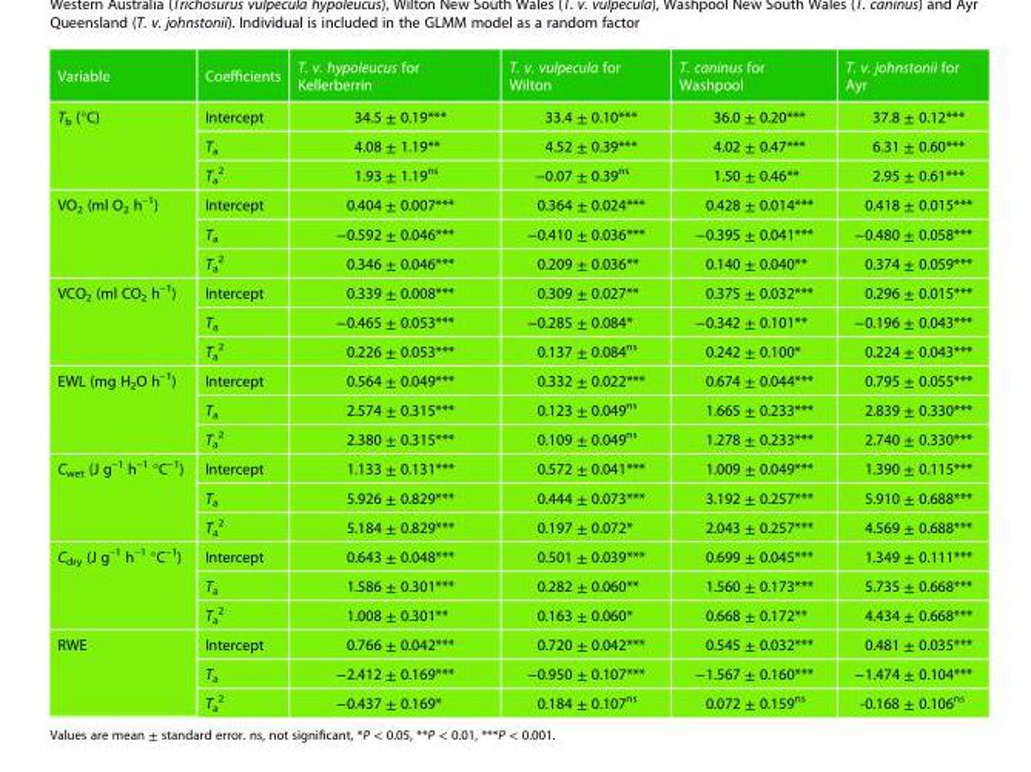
<table><thead><tr><td>Variable</td><td>Coefficients</td><td>T. v. hypoleucus for Kellerberrin</td><td>T. v. vulpecula for Wilton</td><td>T. caninus for Washpool</td><td>T. v. johnstonii for Ayr</td></tr></thead><tbody><tr><td rowspan="3">T<sub>b</sub> (°C)</td><td>Intercept</td><td>34.5 ± 0.19***</td><td>33.4 ± 0.10***</td><td>36.0 ± 0.20***</td><td>37.8 ± 0.12***</td></tr><tr><td>T<sub>a</sub></td><td>4.08 ± 1.19**</td><td>4.52 ± 0.39***</td><td>4.02 ± 0.47***</td><td>6.31 ± 0.60***</td></tr><tr><td>T<sub>a</sub> <sup>2</sup></td><td>1.93 ± 1.19<sup>ns</sup></td><td>−0.07 ± 0.39<sup>ns</sup></td><td>1.50 ± 0.46**</td><td>2.95 ± 0.61***</td></tr><tr><td rowspan="3">VO<sub>2</sub> (ml O<sub>2</sub> h<sup>–1</sup>)</td><td>Intercept</td><td>0.404 ± 0.007***</td><td>0.364 ± 0.024***</td><td>0.428 ± 0.014***</td><td>0.418 ± 0.015***</td></tr><tr><td>T<sub>a</sub></td><td>−0.592 ± 0.046***</td><td>−0.410 ± 0.036***</td><td>−0.395 ± 0.041***</td><td>−0.480 ± 0.058***</td></tr><tr><td>T<sub>a</sub> <sup>2</sup></td><td>0.346 ± 0.046***</td><td>0.209 ± 0.036**</td><td>0.140 ± 0.040**</td><td>0.374 ± 0.059***</td></tr><tr><td rowspan="3">VCO<sub>2</sub> (ml CO<sub>2</sub> h<sup>–1</sup>)</td><td>Intercept</td><td>0.339 ± 0.008***</td><td>0.309 ± 0.027**</td><td>0.375 ± 0.032***</td><td>0.296 ± 0.015***</td></tr><tr><td>T<sub>a</sub></td><td>−0.465 ± 0.053***</td><td>−0.285 ± 0.084*</td><td>−0.342 ± 0.101**</td><td>−0.196 ± 0.043***</td></tr><tr><td>T<sub>a</sub> <sup>2</sup></td><td>0.226 ± 0.053***</td><td>0.137 ± 0.084<sup>ns</sup></td><td>0.242 ± 0.100*</td><td>0.224 ± 0.043***</td></tr><tr><td rowspan="3">EWL (mg H<sub>2</sub>O h<sup>–1</sup>)</td><td>Intercept</td><td>0.564 ± 0.049***</td><td>0.332 ± 0.022***</td><td>0.674 ± 0.044***</td><td>0.795 ± 0.055***</td></tr><tr><td>T<sub>a</sub></td><td>2.574 ± 0.315***</td><td>0.123 ± 0.049<sup>ns</sup></td><td>1.665 ± 0.233***</td><td>2.839 ± 0.330***</td></tr><tr><td>T<sub>a</sub> <sup>2</sup></td><td>2.380 ± 0.315***</td><td>0.109 ± 0.049<sup>ns</sup></td><td>1.278 ± 0.233***</td><td>2.740 ± 0.330***</td></tr><tr><td rowspan="3">C<sub>wet</sub> (J g<sup>–1</sup> h<sup>–1</sup> °C<sup>–1</sup>)</td><td>Intercept</td><td>1.133 ± 0.131***</td><td>0.572 ± 0.041***</td><td>1.009 ± 0.049***</td><td>1.390 ± 0.115***</td></tr><tr><td>T<sub>a</sub></td><td>5.926 ± 0.829***</td><td>0.444 ± 0.073***</td><td>3.192 ± 0.257***</td><td>5.910 ± 0.688***</td></tr><tr><td>T<sub>a</sub> <sup>2</sup></td><td>5.184 ± 0.829***</td><td>0.197 ± 0.072*</td><td>2.043 ± 0.257***</td><td>4.569 ± 0.688***</td></tr><tr><td rowspan="3">C<sub>dry</sub> (J g<sup>–1</sup> h<sup>–1</sup> °C<sup>–1</sup>)</td><td>Intercept</td><td>0.643 ± 0.048***</td><td>0.501 ± 0.039***</td><td>0.699 ± 0.045***</td><td>1.349 ± 0.111***</td></tr><tr><td>T<sub>a</sub></td><td>1.586 ± 0.301***</td><td>0.282 ± 0.060**</td><td>1.560 ± 0.173***</td><td>5.735 ± 0.668***</td></tr><tr><td>T<sub>a</sub> <sup>2</sup></td><td>1.008 ± 0.301**</td><td>0.163 ± 0.060*</td><td>0.668 ± 0.172**</td><td>4.434 ± 0.668***</td></tr><tr><td rowspan="3">RWE</td><td>Intercept</td><td>0.766 ± 0.042***</td><td>0.720 ± 0.042***</td><td>0.545 ± 0.032***</td><td>0.481 ± 0.035***</td></tr><tr><td>T<sub>a</sub></td><td>−2.412 ± 0.169***</td><td>−0.950 ± 0.107***</td><td>−1.567 ± 0.160***</td><td>−1.474 ± 0.104***</td></tr><tr><td>T<sub>a</sub> <sup>2</sup></td><td>−0.437 ± 0.169*</td><td>0.184 ± 0.107<sup>ns</sup></td><td>0.072 ± 0.159<sup>ns</sup></td><td>-0.168 ± 0.106<sup>ns</sup></td></tr></tbody></table>